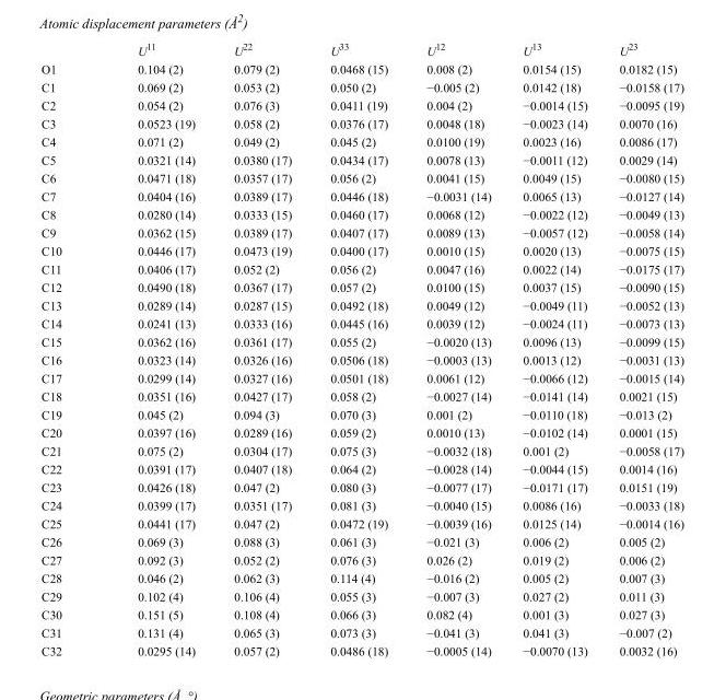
<table><thead><tr><td></td><td>U<sup>11</sup></td><td>U<sup>22</sup></td><td>U<sup>33</sup></td><td>U<sup>12</sup></td><td>U<sup>13</sup></td><td>U<sup>23</sup></td></tr></thead><tbody><tr><td>O1</td><td>0.104 (2)</td><td>0.079 (2)</td><td>0.0468 (15)</td><td>0.008 (2)</td><td>0.0154 (15)</td><td>0.0182 (15)</td></tr><tr><td>C1</td><td>0.069 (2)</td><td>0.053 (2)</td><td>0.050 (2)</td><td>−0.005 (2)</td><td>0.0142 (18)</td><td>−0.0158 (17)</td></tr><tr><td>C2</td><td>0.054 (2)</td><td>0.076 (3)</td><td>0.0411 (19)</td><td>0.004 (2)</td><td>−0.0014 (15)</td><td>−0.0095 (19)</td></tr><tr><td>C3</td><td>0.0523 (19)</td><td>0.058 (2)</td><td>0.0376 (17)</td><td>0.0048 (18)</td><td>−0.0023 (14)</td><td>0.0070 (16)</td></tr><tr><td>C4</td><td>0.071 (2)</td><td>0.049 (2)</td><td>0.045 (2)</td><td>0.0100 (19)</td><td>0.0023 (16)</td><td>0.0086 (17)</td></tr><tr><td>C5</td><td>0.0321 (14)</td><td>0.0380 (17)</td><td>0.0434 (17)</td><td>0.0078 (13)</td><td>−0.0011 (12)</td><td>0.0029 (14)</td></tr><tr><td>C6</td><td>0.0471 (18)</td><td>0.0357 (17)</td><td>0.056 (2)</td><td>0.0041 (15)</td><td>0.0049 (15)</td><td>−0.0080 (15)</td></tr><tr><td>C7</td><td>0.0404 (16)</td><td>0.0389 (17)</td><td>0.0446 (18)</td><td>−0.0031 (14)</td><td>0.0065 (13)</td><td>−0.0127 (14)</td></tr><tr><td>C8</td><td>0.0280 (14)</td><td>0.0333 (15)</td><td>0.0460 (17)</td><td>0.0068 (12)</td><td>−0.0022 (12)</td><td>−0.0049 (13)</td></tr><tr><td>C9</td><td>0.0362 (15)</td><td>0.0389 (17)</td><td>0.0407 (17)</td><td>0.0089 (13)</td><td>−0.0057 (12)</td><td>−0.0058 (14)</td></tr><tr><td>C10</td><td>0.0446 (17)</td><td>0.0473 (19)</td><td>0.0400 (17)</td><td>0.0010 (15)</td><td>0.0020 (13)</td><td>−0.0075 (15)</td></tr><tr><td>C11</td><td>0.0406 (17)</td><td>0.052 (2)</td><td>0.056 (2)</td><td>0.0047 (16)</td><td>0.0022 (14)</td><td>−0.0175 (17)</td></tr><tr><td>C12</td><td>0.0490 (18)</td><td>0.0367 (17)</td><td>0.057 (2)</td><td>0.0100 (15)</td><td>0.0037 (15)</td><td>−0.0090 (15)</td></tr><tr><td>C13</td><td>0.0289 (14)</td><td>0.0287 (15)</td><td>0.0492 (18)</td><td>0.0049 (12)</td><td>−0.0049 (11)</td><td>−0.0052 (13)</td></tr><tr><td>C14</td><td>0.0241 (13)</td><td>0.0333 (16)</td><td>0.0445 (16)</td><td>0.0039 (12)</td><td>−0.0024 (11)</td><td>−0.0073 (13)</td></tr><tr><td>C15</td><td>0.0362 (16)</td><td>0.0361 (17)</td><td>0.055 (2)</td><td>−0.0020 (13)</td><td>0.0096 (13)</td><td>−0.0099 (15)</td></tr><tr><td>C16</td><td>0.0323 (14)</td><td>0.0326 (16)</td><td>0.0506 (18)</td><td>−0.0003 (13)</td><td>0.0013 (12)</td><td>−0.0031 (13)</td></tr><tr><td>C17</td><td>0.0299 (14)</td><td>0.0327 (16)</td><td>0.0501 (18)</td><td>0.0061 (12)</td><td>−0.0066 (12)</td><td>−0.0015 (14)</td></tr><tr><td>C18</td><td>0.0351 (16)</td><td>0.0427 (17)</td><td>0.058 (2)</td><td>−0.0027 (14)</td><td>−0.0141 (14)</td><td>0.0021 (15)</td></tr><tr><td>C19</td><td>0.045 (2)</td><td>0.094 (3)</td><td>0.070 (3)</td><td>0.001 (2)</td><td>−0.0110 (18)</td><td>−0.013 (2)</td></tr><tr><td>C20</td><td>0.0397 (16)</td><td>0.0289 (16)</td><td>0.059 (2)</td><td>0.0010 (13)</td><td>−0.0102 (14)</td><td>0.0001 (15)</td></tr><tr><td>C21</td><td>0.075 (2)</td><td>0.0304 (17)</td><td>0.075 (3)</td><td>−0.0032 (18)</td><td>0.001 (2)</td><td>−0.0058 (17)</td></tr><tr><td>C22</td><td>0.0391 (17)</td><td>0.0407 (18)</td><td>0.064 (2)</td><td>−0.0028 (14)</td><td>−0.0044 (15)</td><td>0.0014 (16)</td></tr><tr><td>C23</td><td>0.0426 (18)</td><td>0.047 (2)</td><td>0.080 (3)</td><td>−0.0077 (17)</td><td>−0.0171 (17)</td><td>0.0151 (19)</td></tr><tr><td>C24</td><td>0.0399 (17)</td><td>0.0351 (17)</td><td>0.081 (3)</td><td>−0.0040 (15)</td><td>0.0086 (16)</td><td>−0.0033 (18)</td></tr><tr><td>C25</td><td>0.0441 (17)</td><td>0.047 (2)</td><td>0.0472 (19)</td><td>−0.0039 (16)</td><td>0.0125 (14)</td><td>−0.0014 (16)</td></tr><tr><td>C26</td><td>0.069 (3)</td><td>0.088 (3)</td><td>0.061 (3)</td><td>−0.021 (3)</td><td>0.006 (2)</td><td>0.005 (2)</td></tr><tr><td>C27</td><td>0.092 (3)</td><td>0.052 (2)</td><td>0.076 (3)</td><td>0.026 (2)</td><td>0.019 (2)</td><td>0.006 (2)</td></tr><tr><td>C28</td><td>0.046 (2)</td><td>0.062 (3)</td><td>0.114 (4)</td><td>−0.016 (2)</td><td>0.005 (2)</td><td>0.007 (3)</td></tr><tr><td>C29</td><td>0.102 (4)</td><td>0.106 (4)</td><td>0.055 (3)</td><td>−0.007 (3)</td><td>0.027 (2)</td><td>0.011 (3)</td></tr><tr><td>C30</td><td>0.151 (5)</td><td>0.108 (4)</td><td>0.066 (3)</td><td>0.082 (4)</td><td>0.001 (3)</td><td>0.027 (3)</td></tr><tr><td>C31</td><td>0.131 (4)</td><td>0.065 (3)</td><td>0.073 (3)</td><td>−0.041 (3)</td><td>0.041 (3)</td><td>−0.007 (2)</td></tr><tr><td>C32</td><td>0.0295 (14)</td><td>0.057 (2)</td><td>0.0486 (18)</td><td>−0.0005 (14)</td><td>−0.0070 (13)</td><td>0.0032 (16)</td></tr></tbody></table>